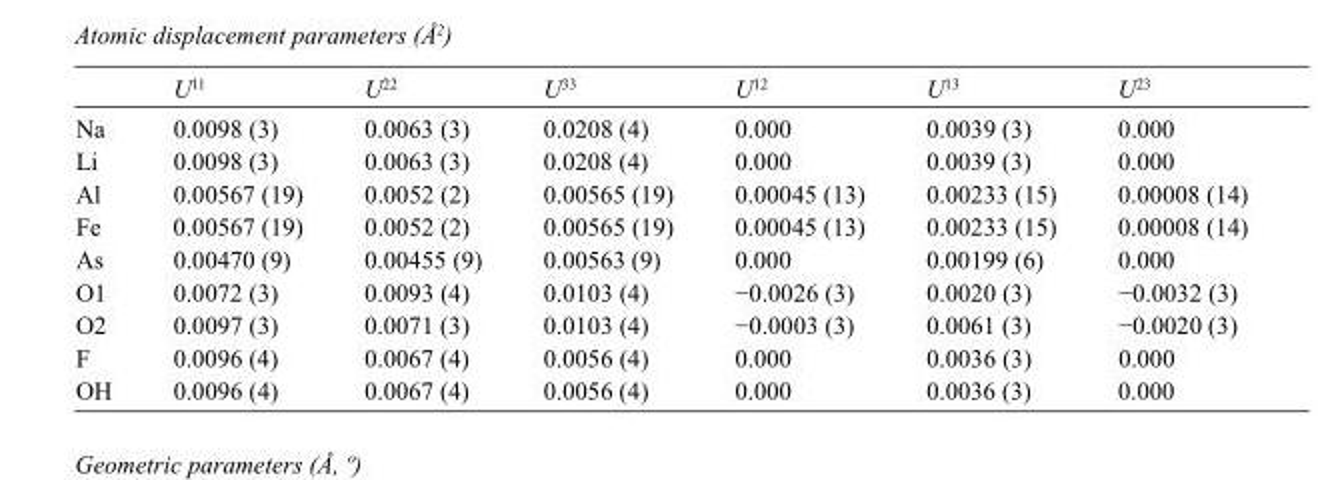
<table><thead><tr><td></td><td>U<sup>11</sup></td><td>U<sup>22</sup></td><td>U<sup>33</sup></td><td>U<sup>12</sup></td><td>U<sup>13</sup></td><td>U<sup>23</sup></td></tr></thead><tbody><tr><td>Na</td><td>0.0098 (3)</td><td>0.0063 (3)</td><td>0.0208 (4)</td><td>0.000</td><td>0.0039 (3)</td><td>0.000</td></tr><tr><td>Li</td><td>0.0098 (3)</td><td>0.0063 (3)</td><td>0.0208 (4)</td><td>0.000</td><td>0.0039 (3)</td><td>0.000</td></tr><tr><td>Al</td><td>0.00567 (19)</td><td>0.0052 (2)</td><td>0.00565 (19)</td><td>0.00045 (13)</td><td>0.00233 (15)</td><td>0.00008 (14)</td></tr><tr><td>Fe</td><td>0.00567 (19)</td><td>0.0052 (2)</td><td>0.00565 (19)</td><td>0.00045 (13)</td><td>0.00233 (15)</td><td>0.00008 (14)</td></tr><tr><td>As</td><td>0.00470 (9)</td><td>0.00455 (9)</td><td>0.00563 (9)</td><td>0.000</td><td>0.00199 (6)</td><td>0.000</td></tr><tr><td>O1</td><td>0.0072 (3)</td><td>0.0093 (4)</td><td>0.0103 (4)</td><td>−0.0026 (3)</td><td>0.0020 (3)</td><td>−0.0032 (3)</td></tr><tr><td>O2</td><td>0.0097 (3)</td><td>0.0071 (3)</td><td>0.0103 (4)</td><td>−0.0003 (3)</td><td>0.0061 (3)</td><td>−0.0020 (3)</td></tr><tr><td>F</td><td>0.0096 (4)</td><td>0.0067 (4)</td><td>0.0056 (4)</td><td>0.000</td><td>0.0036 (3)</td><td>0.000</td></tr><tr><td>OH</td><td>0.0096 (4)</td><td>0.0067 (4)</td><td>0.0056 (4)</td><td>0.000</td><td>0.0036 (3)</td><td>0.000</td></tr></tbody></table>